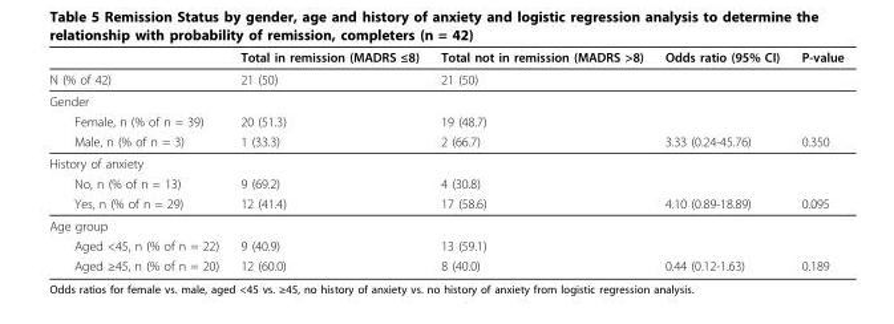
<table><thead><tr><td></td><td>Total in remission (MADRS ≤8)</td><td>Total not in remission (MADRS &gt;8)</td><td>Odds ratio (95% CI)</td><td>P-value</td></tr></thead><tbody><tr><td>N (% of 42)</td><td>21 (50)</td><td>21 (50)</td><td></td><td></td></tr><tr><td colspan="5">Gender</td></tr><tr><td>Female, n (% of n = 39)</td><td>20 (51.3)</td><td>19 (48.7)</td><td></td><td></td></tr><tr><td>Male, n (% of n = 3)</td><td>1 (33.3)</td><td>2 (66.7)</td><td>3.33 (0.24-45.76)</td><td>0.350</td></tr><tr><td colspan="5">History of anxiety</td></tr><tr><td>No, n (% of n = 13)</td><td>9 (69.2)</td><td>4 (30.8)</td><td></td><td></td></tr><tr><td>Yes, n (% of n = 29)</td><td>12 (41.4)</td><td>17 (58.6)</td><td>4.10 (0.89-18.89)</td><td>0.095</td></tr><tr><td colspan="5">Age group</td></tr><tr><td>Aged &lt;45, n (% of n = 22)</td><td>9 (40.9)</td><td>13 (59.1)</td><td></td><td></td></tr><tr><td>Aged ≥45, n (% of n = 20)</td><td>12 (60.0)</td><td>8 (40.0)</td><td>0.44 (0.12-1.63)</td><td>0.189</td></tr></tbody></table>